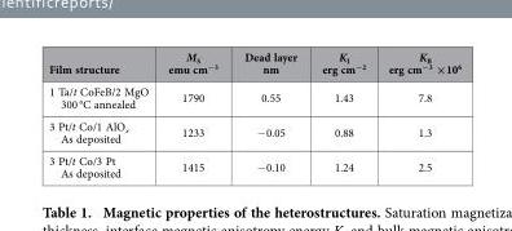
<table><thead><tr><td>Film structure</td><td>M<sub>S</sub> emu cm<sup>−3</sup></td><td>Dead layer nm</td><td>K<sub>I</sub> erg cm<sup>−2</sup></td><td>K<sub>B</sub> erg cm<sup>−3</sup> ×10<sup>6</sup></td></tr></thead><tbody><tr><td>1 Ta/t CoFeB/2 MgO 300 °C annealed</td><td>1790</td><td>0.55</td><td>1.43</td><td>7.8</td></tr><tr><td>3 Pt/t Co/1 AlO<sub>x</sub> As deposited</td><td>1233</td><td>− 0.05</td><td>0.88</td><td>1.3</td></tr><tr><td>3 Pt/t Co/3 Pt As deposited</td><td>1415</td><td>− 0.10</td><td>1.24</td><td>2.5</td></tr></tbody></table>